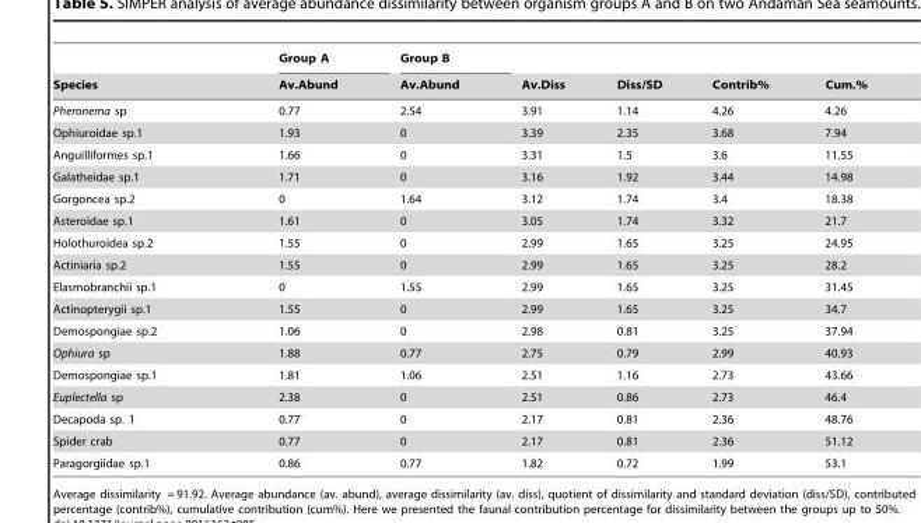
<table><thead><tr><td rowspan="2">Species</td><td rowspan="2">Group A Av.Abund</td><td rowspan="2">Group B Av.Abund</td><td rowspan="2">Av.Diss</td><td rowspan="2">Diss/SD</td><td rowspan="2">Contrib%</td><td rowspan="2">Cum.%</td></tr><tr></tr></thead><tbody><tr><td>Pheronema sp</td><td>0.77</td><td>2.54</td><td>3.91</td><td>1.14</td><td>4.26</td><td>4.26</td></tr><tr><td>Ophiuroidae sp.1</td><td>1.93</td><td>0</td><td>3.39</td><td>2.35</td><td>3.68</td><td>7.94</td></tr><tr><td>Anguilliformes sp.1</td><td>1.66</td><td>0</td><td>3.31</td><td>1.5</td><td>3.6</td><td>11.55</td></tr><tr><td>Galatheidae sp.1</td><td>1.71</td><td>0</td><td>3.16</td><td>1.92</td><td>3.44</td><td>14.98</td></tr><tr><td>Gorgoncea sp.2</td><td>0</td><td>1.64</td><td>3.12</td><td>1.74</td><td>3.4</td><td>18.38</td></tr><tr><td>Asteroidae sp.1</td><td>1.61</td><td>0</td><td>3.05</td><td>1.74</td><td>3.32</td><td>21.7</td></tr><tr><td>Holothuroidea sp.2</td><td>1.55</td><td>0</td><td>2.99</td><td>1.65</td><td>3.25</td><td>24.95</td></tr><tr><td>Actiniaria sp.2</td><td>1.55</td><td>0</td><td>2.99</td><td>1.65</td><td>3.25</td><td>28.2</td></tr><tr><td>Elasmobranchii sp.1</td><td>0</td><td>1.55</td><td>2.99</td><td>1.65</td><td>3.25</td><td>31.45</td></tr><tr><td>Actinopterygii sp.1</td><td>1.55</td><td>0</td><td>2.99</td><td>1.65</td><td>3.25</td><td>34.7</td></tr><tr><td>Demospongiae sp.2</td><td>1.06</td><td>0</td><td>2.98</td><td>0.81</td><td>3.25</td><td>37.94</td></tr><tr><td>Ophiura sp</td><td>1.88</td><td>0.77</td><td>2.75</td><td>0.79</td><td>2.99</td><td>40.93</td></tr><tr><td>Demospongiae sp.1</td><td>1.81</td><td>1.06</td><td>2.51</td><td>1.16</td><td>2.73</td><td>43.66</td></tr><tr><td>Euplectella sp</td><td>2.38</td><td>0</td><td>2.51</td><td>0.86</td><td>2.73</td><td>46.4</td></tr><tr><td>Decapoda sp. 1</td><td>0.77</td><td>0</td><td>2.17</td><td>0.81</td><td>2.36</td><td>48.76</td></tr><tr><td>Spider crab</td><td>0.77</td><td>0</td><td>2.17</td><td>0.81</td><td>2.36</td><td>51.12</td></tr><tr><td>Paragorgiidae sp.1</td><td>0.86</td><td>0.77</td><td>1.82</td><td>0.72</td><td>1.99</td><td>53.1</td></tr></tbody></table>